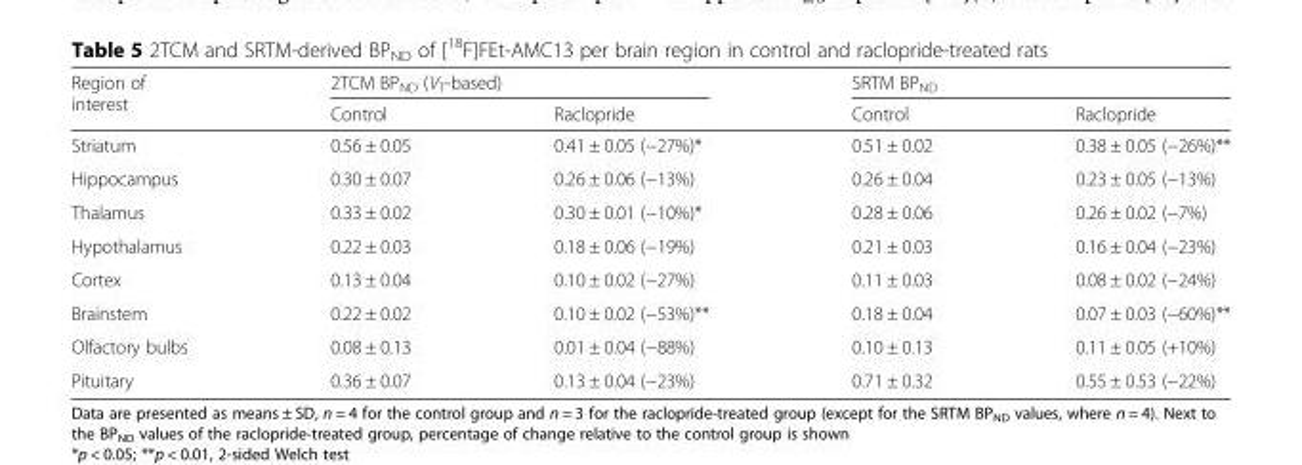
<table><thead><tr><td rowspan="2">Region of interest</td><td colspan="2">2TCM BP<sub>ND</sub> (V<sub>T</sub>-based)</td><td colspan="2">SRTM BP<sub>ND</sub></td></tr><tr><td>Control</td><td>Raclopride</td><td>Control</td><td>Raclopride</td></tr></thead><tbody><tr><td>Striatum</td><td>0.56 ± 0.05</td><td>0.41 ± 0.05 (−27%)*</td><td>0.51 ± 0.02</td><td>0.38 ± 0.05 (−26%)**</td></tr><tr><td>Hippocampus</td><td>0.30 ± 0.07</td><td>0.26 ± 0.06 (−13%)</td><td>0.26 ± 0.04</td><td>0.23 ± 0.05 (−13%)</td></tr><tr><td>Thalamus</td><td>0.33 ± 0.02</td><td>0.30 ± 0.01 (−10%)*</td><td>0.28 ± 0.06</td><td>0.26 ± 0.02 (−7%)</td></tr><tr><td>Hypothalamus</td><td>0.22 ± 0.03</td><td>0.18 ± 0.06 (−19%)</td><td>0.21 ± 0.03</td><td>0.16 ± 0.04 (−23%)</td></tr><tr><td>Cortex</td><td>0.13 ± 0.04</td><td>0.10 ± 0.02 (−27%)</td><td>0.11 ± 0.03</td><td>0.08 ± 0.02 (−24%)</td></tr><tr><td>Brainstem</td><td>0.22 ± 0.02</td><td>0.10 ± 0.02 (−53%)**</td><td>0.18 ± 0.04</td><td>0.07 ± 0.03 (−60%)**</td></tr><tr><td>Olfactory bulbs</td><td>0.08 ± 0.13</td><td>0.01 ± 0.04 (−88%)</td><td>0.10 ± 0.13</td><td>0.11 ± 0.05 (+10%)</td></tr><tr><td>Pituitary</td><td>0.36 ± 0.07</td><td>0.13 ± 0.04 (−23%)</td><td>0.71 ± 0.32</td><td>0.55 ± 0.53 (−22%)</td></tr></tbody></table>